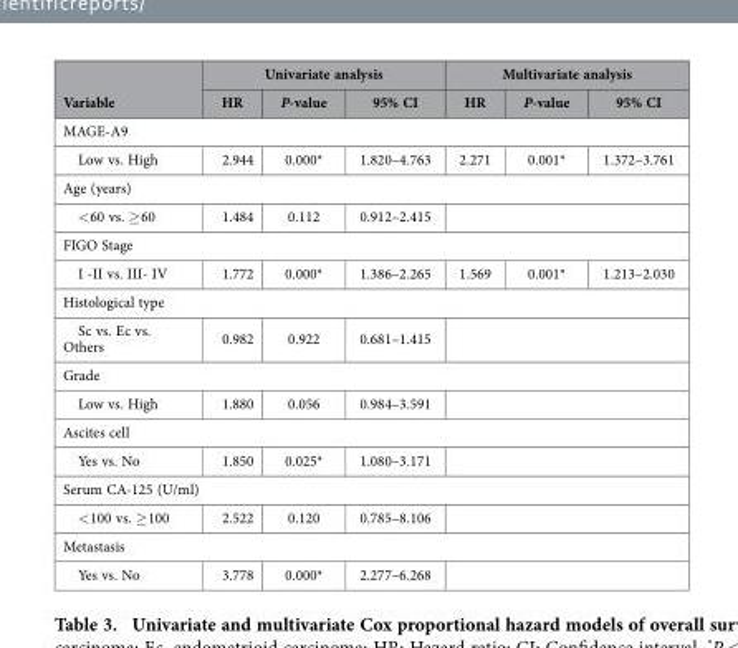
<table><thead><tr><td rowspan="2">Variable</td><td colspan="3">Univariate analysis</td><td colspan="3">Multivariate analysis</td></tr><tr><td>HR</td><td>P-value</td><td>95% CI</td><td>HR</td><td>P-value</td><td>95% CI</td></tr></thead><tbody><tr><td colspan="7">MAGE-A9</td></tr><tr><td>Low vs. High</td><td>2.944</td><td>0.000*</td><td>1.820–4.763</td><td>2.271</td><td>0.001*</td><td>1.372–3.761</td></tr><tr><td colspan="7">Age (years)</td></tr><tr><td>&lt; 60 vs. ≥ 60</td><td>1.484</td><td>0.112</td><td>0.912–2.415</td><td colspan="3"></td></tr><tr><td colspan="7">FIGO Stage</td></tr><tr><td>I -II vs. III- IV</td><td>1.772</td><td>0.000*</td><td>1.386–2.265</td><td>1.569</td><td>0.001*</td><td>1.213–2.030</td></tr><tr><td colspan="7">Histological type</td></tr><tr><td>Sc vs. Ec vs. Others</td><td>0.982</td><td>0.922</td><td>0.681–1.415</td><td colspan="3"></td></tr><tr><td colspan="7">Grade</td></tr><tr><td>Low vs. High</td><td>1.880</td><td>0.056</td><td>0.984–3.591</td><td colspan="3"></td></tr><tr><td colspan="7">Ascites cell</td></tr><tr><td>Yes vs. No</td><td>1.850</td><td>0.025*</td><td>1.080–3.171</td><td colspan="3"></td></tr><tr><td colspan="7">Serum CA-125 (U/ml)</td></tr><tr><td>&lt; 100 vs. ≥ 100</td><td>2.522</td><td>0.120</td><td>0.785–8.106</td><td colspan="3"></td></tr><tr><td colspan="7">Metastasis</td></tr><tr><td>Yes vs. No</td><td>3.778</td><td>0.000*</td><td>2.277–6.268</td><td colspan="3"></td></tr></tbody></table>